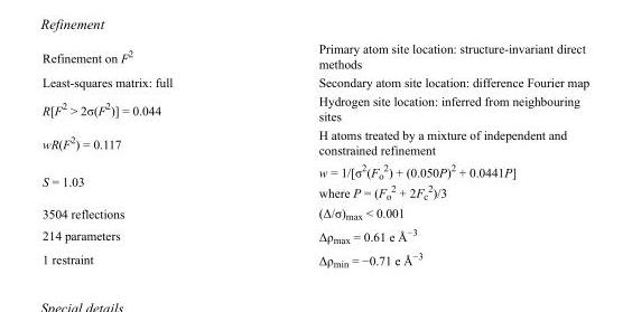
<table><tbody><tr><td>Refinement on F<sup>2</sup></td><td>Primary atom site location: structure-invariant direct methods</td></tr><tr><td>Least-squares matrix: full</td><td>Secondary atom site location: difference Fourier map</td></tr><tr><td>R[F<sup>2</sup> &gt; 2σ(F<sup>2</sup>)] = 0.044</td><td>Hydrogen site location: inferred from neighbouring sites</td></tr><tr><td>wR(F<sup>2</sup>) = 0.117</td><td>H atoms treated by a mixture of independent and constrained refinement</td></tr><tr><td>S = 1.03</td><td>w = 1/[σ<sup>2</sup>(F<sub>o</sub> <sup>2</sup>) + (0.050P)<sup>2</sup> + 0.0441P] where P = (F<sub>o</sub> <sup>2</sup> + 2F<sub>c</sub> <sup>2</sup>)/3</td></tr><tr><td>3504 reflections</td><td>(Δ/σ)<sub>max</sub> &lt; 0.001</td></tr><tr><td>214 parameters</td><td>Δρ<sub>max</sub> = 0.61 e Å<sup>−3</sup></td></tr><tr><td>1 restraint</td><td>Δρ<sub>min</sub> = −0.71 e Å<sup>−3</sup></td></tr></tbody></table>